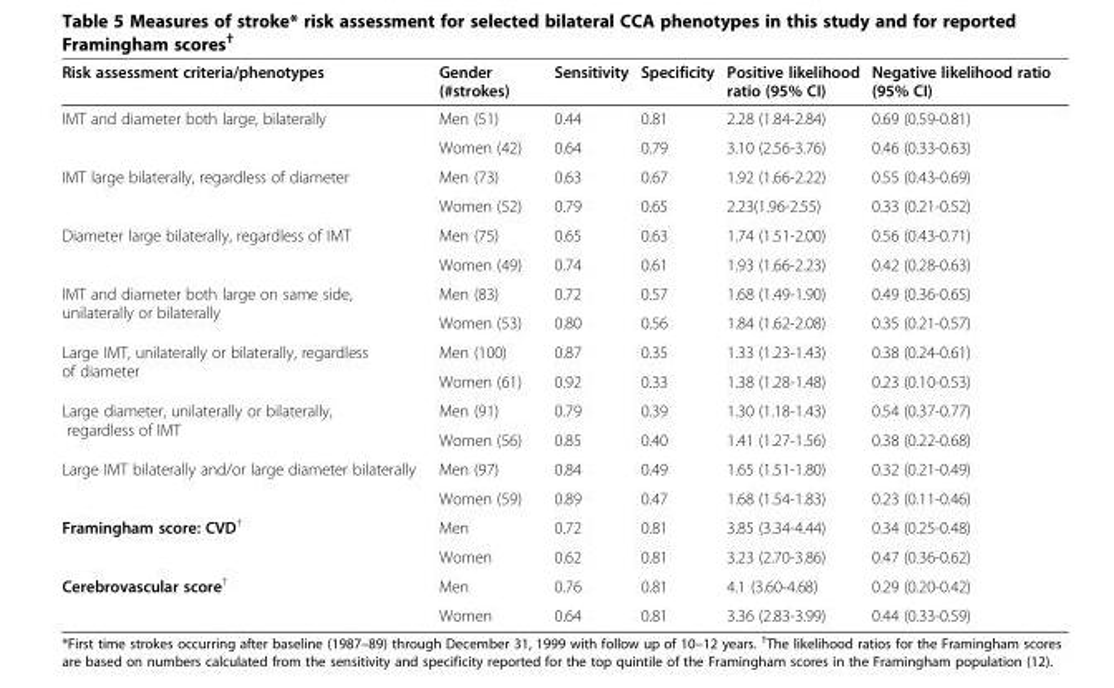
<table><thead><tr><td>Risk assessment criteria/phenotypes</td><td>Gender (#strokes)</td><td>Sensitivity</td><td>Specificity</td><td>Positive likelihood ratio (95% CI)</td><td>Negative likelihood ratio (95% CI)</td></tr></thead><tbody><tr><td rowspan="2">IMT and diameter both large, bilaterally</td><td>Men (51)</td><td>0.44</td><td>0.81</td><td>2.28 (1.84-2.84)</td><td>0.69 (0.59-0.81)</td></tr><tr><td>Women (42)</td><td>0.64</td><td>0.79</td><td>3.10 (2.56-3.76)</td><td>0.46 (0.33-0.63)</td></tr><tr><td rowspan="2">IMT large bilaterally, regardless of diameter</td><td>Men (73)</td><td>0.63</td><td>0.67</td><td>1.92 (1.66-2.22)</td><td>0.55 (0.43-0.69)</td></tr><tr><td>Women (52)</td><td>0.79</td><td>0.65</td><td>2.23(1.96-2.55)</td><td>0.33 (0.21-0.52)</td></tr><tr><td rowspan="2">Diameter large bilaterally, regardless of IMT</td><td>Men (75)</td><td>0.65</td><td>0.63</td><td>1.74 (1.51-2.00)</td><td>0.56 (0.43-0.71)</td></tr><tr><td>Women (49)</td><td>0.74</td><td>0.61</td><td>1.93 (1.66-2.23)</td><td>0.42 (0.28-0.63)</td></tr><tr><td rowspan="2">IMT and diameter both large on same side, unilaterally or bilaterally</td><td>Men (83)</td><td>0.72</td><td>0.57</td><td>1.68 (1.49-1.90)</td><td>0.49 (0.36-0.65)</td></tr><tr><td>Women (53)</td><td>0.80</td><td>0.56</td><td>1.84 (1.62-2.08)</td><td>0.35 (0.21-0.57)</td></tr><tr><td rowspan="2">Large IMT, unilaterally or bilaterally, regardless of diameter</td><td>Men (100)</td><td>0.87</td><td>0.35</td><td>1.33 (1.23-1.43)</td><td>0.38 (0.24-0.61)</td></tr><tr><td>Women (61)</td><td>0.92</td><td>0.33</td><td>1.38 (1.28-1.48)</td><td>0.23 (0.10-0.53)</td></tr><tr><td rowspan="2">Large diameter, unilaterally or bilaterally, regardless of IMT</td><td>Men (91)</td><td>0.79</td><td>0.39</td><td>1.30 (1.18-1.43)</td><td>0.54 (0.37-0.77)</td></tr><tr><td>Women (56)</td><td>0.85</td><td>0.40</td><td>1.41 (1.27-1.56)</td><td>0.38 (0.22-0.68)</td></tr><tr><td rowspan="2">Large IMT bilaterally and/or large diameter bilaterally</td><td>Men (97)</td><td>0.84</td><td>0.49</td><td>1.65 (1.51-1.80)</td><td>0.32 (0.21-0.49)</td></tr><tr><td>Women (59)</td><td>0.89</td><td>0.47</td><td>1.68 (1.54-1.83)</td><td>0.23 (0.11-0.46)</td></tr><tr><td rowspan="2">Framingham score: CVD<sup>†</sup></td><td>Men</td><td>0.72</td><td>0.81</td><td>3.85 (3.34-4.44)</td><td>0.34 (0.25-0.48)</td></tr><tr><td>Women</td><td>0.62</td><td>0.81</td><td>3.23 (2.70-3.86)</td><td>0.47 (0.36-0.62)</td></tr><tr><td rowspan="2">Cerebrovascular score<sup>†</sup></td><td>Men</td><td>0.76</td><td>0.81</td><td>4.1 (3.60-4.68)</td><td>0.29 (0.20-0.42)</td></tr><tr><td>Women</td><td>0.64</td><td>0.81</td><td>3.36 (2.83-3.99)</td><td>0.44 (0.33-0.59)</td></tr></tbody></table>